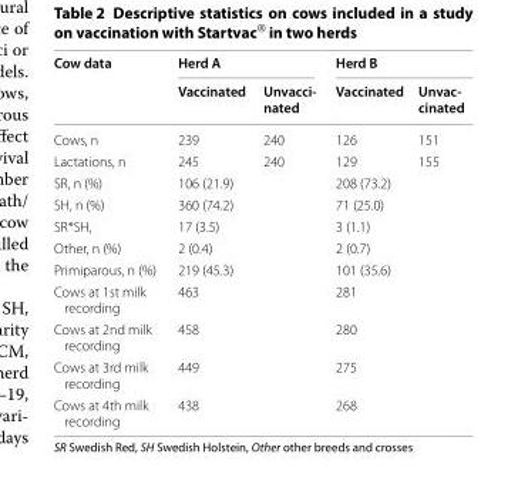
<table><thead><tr><td rowspan="2">Cow data</td><td colspan="2">Herd A</td><td colspan="2">Herd B</td></tr><tr><td>Vaccinated</td><td>Unvacci- nated</td><td>Vaccinated</td><td>Unvac- cinated</td></tr></thead><tbody><tr><td>Cows, n</td><td>239</td><td>240</td><td>126</td><td>151</td></tr><tr><td>Lactations, n</td><td>245</td><td>240</td><td>129</td><td>155</td></tr><tr><td>SR, n (%)</td><td colspan="2">106 (21.9)</td><td colspan="2">208 (73.2)</td></tr><tr><td>SH, n (%)</td><td colspan="2">360 (74.2)</td><td colspan="2">71 (25.0)</td></tr><tr><td>SR*SH,</td><td colspan="2">17 (3.5)</td><td colspan="2">3 (1.1)</td></tr><tr><td>Other, n (%)</td><td colspan="2">2 (0.4)</td><td colspan="2">2 (0.7)</td></tr><tr><td>Primiparous, n (%)</td><td colspan="2">219 (45.3)</td><td colspan="2">101 (35.6)</td></tr><tr><td>Cows at 1st milk recording</td><td colspan="2">463</td><td colspan="2">281</td></tr><tr><td>Cows at 2nd milk recording</td><td colspan="2">458</td><td colspan="2">280</td></tr><tr><td>Cows at 3rd milk recording</td><td colspan="2">449</td><td colspan="2">275</td></tr><tr><td>Cows at 4th milk recording</td><td colspan="2">438</td><td colspan="2">268</td></tr></tbody></table>